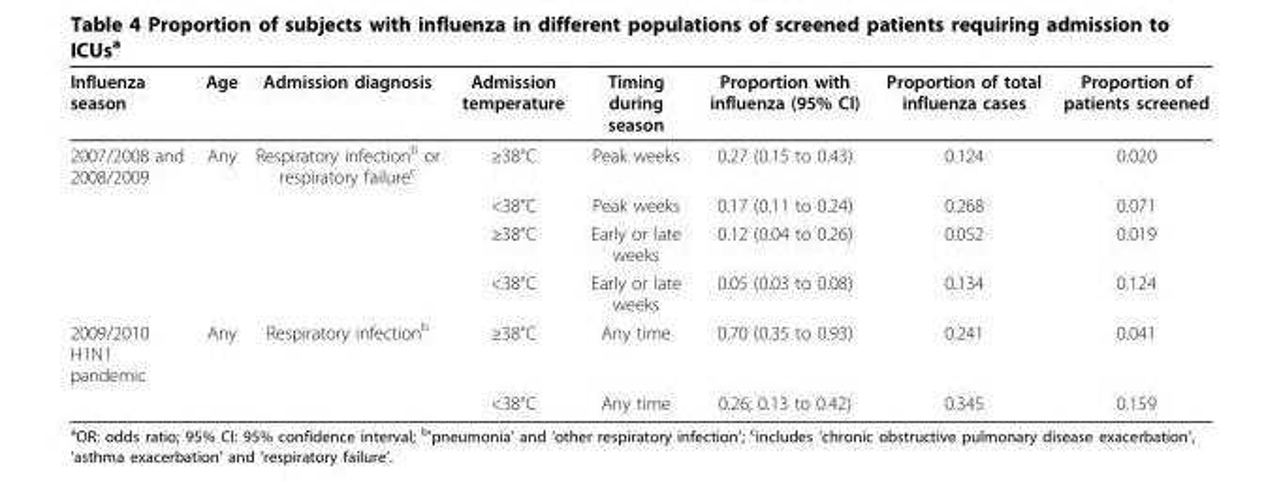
<table><thead><tr><td>Influenza season</td><td>Age</td><td>Admission diagnosis</td><td>Admission temperature</td><td>Timing during season</td><td>Proportion with influenza (95% CI)</td><td>Proportion of total influenza cases</td><td>Proportion of patients screened</td></tr></thead><tbody><tr><td rowspan="4">2007/2008 and 2008/2009</td><td>Any</td><td>Respiratory infection<sup>b</sup> or respiratory failure<sup>c</sup></td><td>≥38°C</td><td>Peak weeks</td><td>0.27 (0.15 to 0.43)</td><td>0.124</td><td>0.020</td></tr><tr><td></td><td></td><td>&lt;38°C</td><td>Peak weeks</td><td>0.17 (0.11 to 0.24)</td><td>0.268</td><td>0.071</td></tr><tr><td></td><td></td><td>≥38°C</td><td>Early or late weeks</td><td>0.12 (0.04 to 0.26)</td><td>0.052</td><td>0.019</td></tr><tr><td></td><td></td><td>&lt;38°C</td><td>Early or late weeks</td><td>0.05 (0.03 to 0.08)</td><td>0.134</td><td>0.124</td></tr><tr><td rowspan="2">2009/2010 H1N1 pandemic</td><td>Any</td><td>Respiratory infection<sup>b</sup></td><td>≥38°C</td><td>Any time</td><td>0.70 (0.35 to 0.93)</td><td>0.241</td><td>0.041</td></tr><tr><td></td><td></td><td>&lt;38°C</td><td>Any time</td><td>0.26; 0.13 to 0.42)</td><td>0.345</td><td>0.159</td></tr></tbody></table>